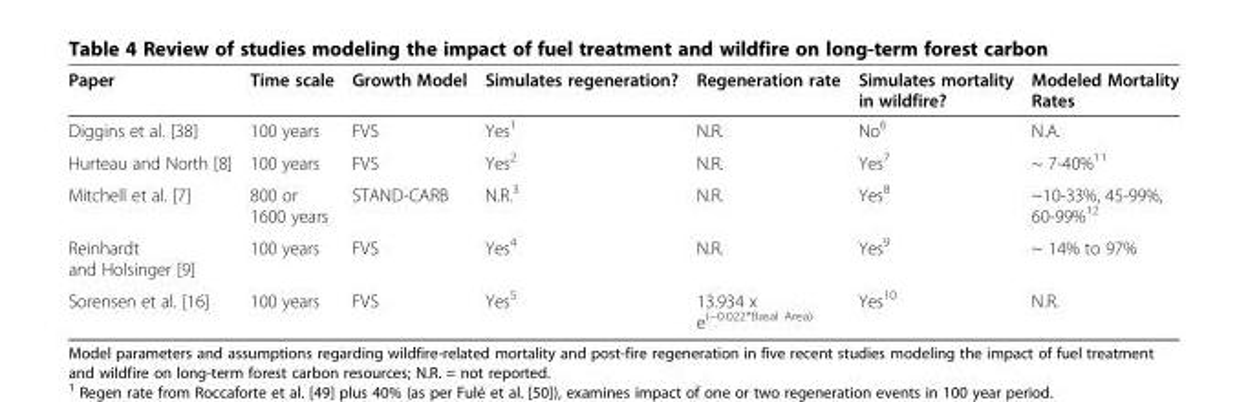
<table><thead><tr><td>Paper</td><td>Time scale</td><td>Growth Model</td><td>Simulates regeneration?</td><td>Regeneration rate</td><td>Simulates mortality in wildfire?</td><td>Modeled Mortality Rates</td></tr></thead><tbody><tr><td>Diggins et al. [38]</td><td>100 years</td><td>FVS</td><td>Yes<sup>1</sup></td><td>N.R.</td><td>No<sup>6</sup></td><td>N.A.</td></tr><tr><td>Hurteau and North [8]</td><td>100 years</td><td>FVS</td><td>Yes<sup>2</sup></td><td>N.R.</td><td>Yes<sup>7</sup></td><td>~ 7-40%<sup>11</sup></td></tr><tr><td>Mitchell et al. [7]</td><td>800 or 1600 years</td><td>STAND-CARB</td><td>N.R.<sup>3</sup></td><td>N.R.</td><td>Yes<sup>8</sup></td><td>~10-33%, 45-99%, 60-99%<sup>12</sup></td></tr><tr><td>Reinhardt and Holsinger [9]</td><td>100 years</td><td>FVS</td><td>Yes<sup>4</sup></td><td>N.R.</td><td>Yes<sup>9</sup></td><td>~ 14% to 97%</td></tr><tr><td>Sorensen et al. [16]</td><td>100 years</td><td>FVS</td><td>Yes<sup>5</sup></td><td>13.934 x e<sup>(−0.022*Basal Area)</sup></td><td>Yes<sup>10</sup></td><td>N.R.</td></tr></tbody></table>